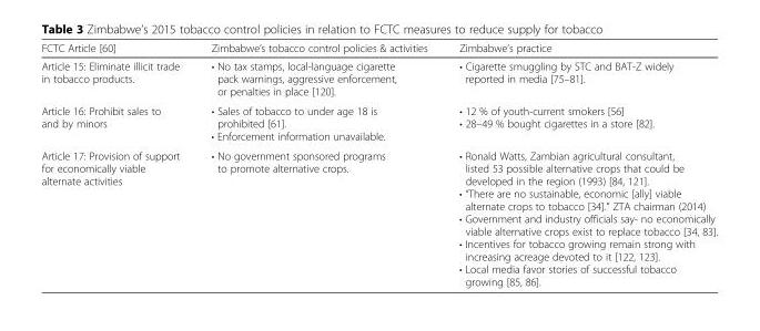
<table><thead><tr><td>FCTC Article [60]</td><td>Zimbabwe’s tobacco control policies &amp; activities</td><td>Zimbabwe’s practice</td></tr></thead><tbody><tr><td>Article 15: Eliminate illicit trade in tobacco products.</td><td>• No tax stamps, local-language cigarette pack warnings, aggressive enforcement, or penalties in place [120].</td><td>• Cigarette smuggling by STC and BAT-Z widely reported in media [75–81].</td></tr><tr><td>Article 16: Prohibit sales to and by minors</td><td>• Sales of tobacco to under age 18 is prohibited [61]. • Enforcement information unavailable.</td><td>• 12 % of youth-current smokers [56] • 28–49 % bought cigarettes in a store [82].</td></tr><tr><td>Article 17: Provision of support for economically viable alternate activities</td><td>• No government sponsored programs to promote alternative crops.</td><td>• Ronald Watts, Zambian agricultural consultant, listed 53 possible alternative crops that could be developed in the region (1993) [84, 121]. • “There are no sustainable, economic [ally] viable alternate crops to tobacco [34].” ZTA chairman (2014) • Government and industry officials say- no economically viable alternative crops exist to replace tobacco [34, 83]. • Incentives for tobacco growing remain strong with increasing acreage devoted to it [122, 123]. • Local media favor stories of successful tobacco growing [85, 86].</td></tr></tbody></table>